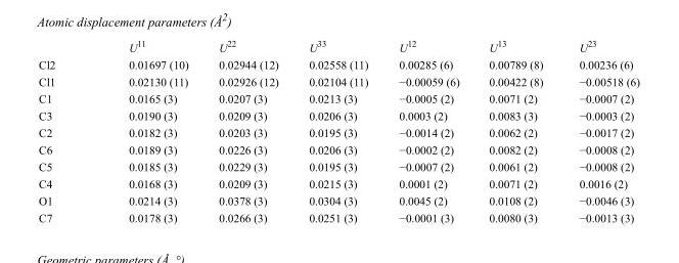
<table><thead><tr><td></td><td>U<sup>11</sup></td><td>U<sup>22</sup></td><td>U<sup>33</sup></td><td>U<sup>12</sup></td><td>U<sup>13</sup></td><td>U<sup>23</sup></td></tr></thead><tbody><tr><td>Cl2</td><td>0.01697 (10)</td><td>0.02944 (12)</td><td>0.02558 (11)</td><td>0.00285 (6)</td><td>0.00789 (8)</td><td>0.00236 (6)</td></tr><tr><td>Cl1</td><td>0.02130 (11)</td><td>0.02926 (12)</td><td>0.02104 (11)</td><td>−0.00059 (6)</td><td>0.00422 (8)</td><td>−0.00518 (6)</td></tr><tr><td>C1</td><td>0.0165 (3)</td><td>0.0207 (3)</td><td>0.0213 (3)</td><td>−0.0005 (2)</td><td>0.0071 (2)</td><td>−0.0007 (2)</td></tr><tr><td>C3</td><td>0.0190 (3)</td><td>0.0209 (3)</td><td>0.0206 (3)</td><td>0.0003 (2)</td><td>0.0083 (3)</td><td>−0.0003 (2)</td></tr><tr><td>C2</td><td>0.0182 (3)</td><td>0.0203 (3)</td><td>0.0195 (3)</td><td>−0.0014 (2)</td><td>0.0062 (2)</td><td>−0.0017 (2)</td></tr><tr><td>C6</td><td>0.0189 (3)</td><td>0.0226 (3)</td><td>0.0206 (3)</td><td>−0.0002 (2)</td><td>0.0082 (2)</td><td>−0.0008 (2)</td></tr><tr><td>C5</td><td>0.0185 (3)</td><td>0.0229 (3)</td><td>0.0195 (3)</td><td>−0.0007 (2)</td><td>0.0061 (2)</td><td>−0.0008 (2)</td></tr><tr><td>C4</td><td>0.0168 (3)</td><td>0.0209 (3)</td><td>0.0215 (3)</td><td>0.0001 (2)</td><td>0.0071 (2)</td><td>0.0016 (2)</td></tr><tr><td>O1</td><td>0.0214 (3)</td><td>0.0378 (3)</td><td>0.0304 (3)</td><td>0.0045 (2)</td><td>0.0108 (2)</td><td>−0.0046 (3)</td></tr><tr><td>C7</td><td>0.0178 (3)</td><td>0.0266 (3)</td><td>0.0251 (3)</td><td>−0.0001 (3)</td><td>0.0080 (3)</td><td>−0.0013 (3)</td></tr></tbody></table>